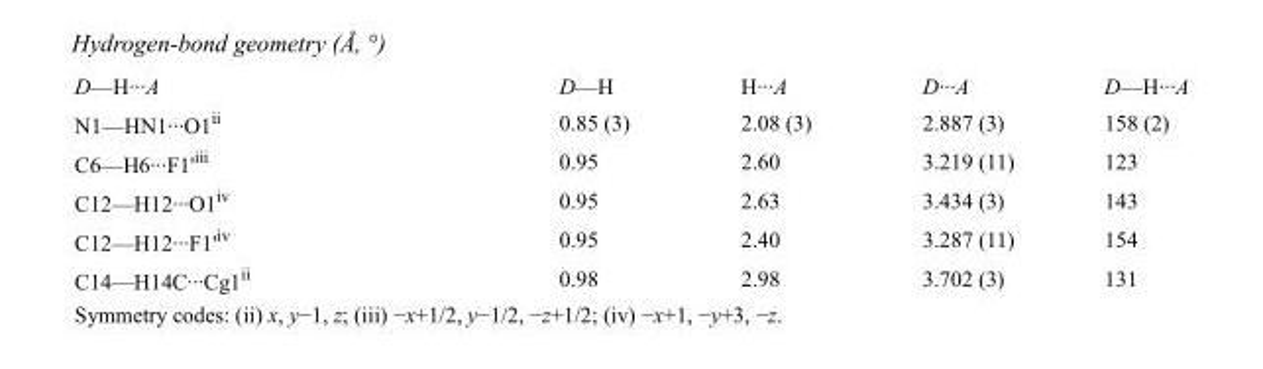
<table><tbody><tr><td>D—H···A</td><td>D—H</td><td>H···A</td><td>D···A</td><td>D—H···A</td></tr><tr><td>N1—HN1···O1<sup>ii</sup></td><td>0.85 (3)</td><td>2.08 (3)</td><td>2.887 (3)</td><td>158 (2)</td></tr><tr><td>C6—H6···F1&#x27;<sup>iii</sup></td><td>0.95</td><td>2.60</td><td>3.219 (11)</td><td>123</td></tr><tr><td>C12—H12···O1<sup>iv</sup></td><td>0.95</td><td>2.63</td><td>3.434 (3)</td><td>143</td></tr><tr><td>C12—H12···F1&#x27;<sup>iv</sup></td><td>0.95</td><td>2.40</td><td>3.287 (11)</td><td>154</td></tr><tr><td>C14—H14C···Cg1<sup>ii</sup></td><td>0.98</td><td>2.98</td><td>3.702 (3)</td><td>131</td></tr></tbody></table>